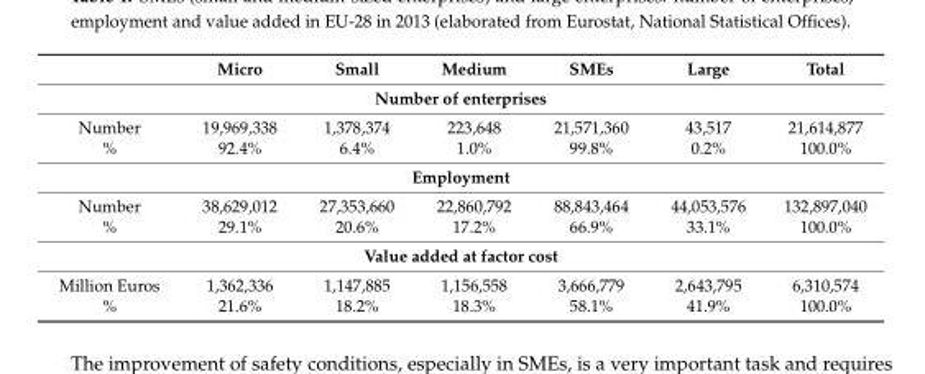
<table><thead><tr><td></td><td>Micro</td><td>Small</td><td>Medium</td><td>SMEs</td><td>Large</td><td>Total</td></tr></thead><tbody><tr><td colspan="7">Number of enterprises</td></tr><tr><td>Number</td><td>19,969,338</td><td>1,378,374</td><td>223,648</td><td>21,571,360</td><td>43,517</td><td>21,614,877</td></tr><tr><td>%</td><td>92.4%</td><td>6.4%</td><td>1.0%</td><td>99.8%</td><td>0.2%</td><td>100.0%</td></tr><tr><td colspan="7">Employment</td></tr><tr><td>Number</td><td>38,629,012</td><td>27,353,660</td><td>22,860,792</td><td>88,843,464</td><td>44,053,576</td><td>132,897,040</td></tr><tr><td>%</td><td>29.1%</td><td>20.6%</td><td>17.2%</td><td>66.9%</td><td>33.1%</td><td>100.0%</td></tr><tr><td colspan="7">Value added at factor cost</td></tr><tr><td>Million Euros</td><td>1,362,336</td><td>1,147,885</td><td>1,156,558</td><td>3,666,779</td><td>2,643,795</td><td>6,310,574</td></tr><tr><td>%</td><td>21.6%</td><td>18.2%</td><td>18.3%</td><td>58.1%</td><td>41.9%</td><td>100.0%</td></tr></tbody></table>